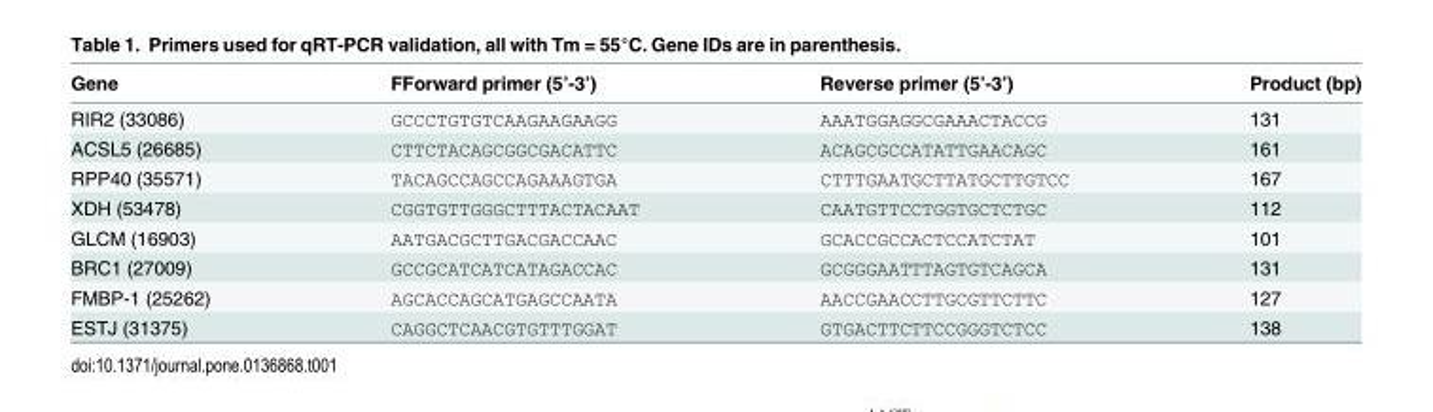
<table><thead><tr><td>Gene</td><td>FForward primer (5’-3’)</td><td>Reverse primer (5’-3’)</td><td>Product (bp)</td></tr></thead><tbody><tr><td>RIR2 (33086)</td><td>GCCCTGTGTCAAGAAGAAGG</td><td>AAATGGAGGCGAAACTACCG</td><td>131</td></tr><tr><td>ACSL5 (26685)</td><td>CTTCTACAGCGGCGACATTC</td><td>ACAGCGCCATATTGAACAGC</td><td>161</td></tr><tr><td>RPP40 (35571)</td><td>TACAGCCAGCCAGAAAGTGA</td><td>CTTTGAATGCTTATGCTTGTCC</td><td>167</td></tr><tr><td>XDH (53478)</td><td>CGGTGTTGGGCTTTACTACAAT</td><td>CAATGTTCCTGGTGCTCTGC</td><td>112</td></tr><tr><td>GLCM (16903)</td><td>AATGACGCTTGACGACCAAC</td><td>GCACCGCCACTCCATCTAT</td><td>101</td></tr><tr><td>BRC1 (27009)</td><td>GCCGCATCATCATAGACCAC</td><td>GCGGGAATTTAGTGTCAGCA</td><td>131</td></tr><tr><td>FMBP-1 (25262)</td><td>AGCACCAGCATGAGCCAATA</td><td>AACCGAACCTTGCGTTCTTC</td><td>127</td></tr><tr><td>ESTJ (31375)</td><td>CAGGCTCAACGTGTTTGGAT</td><td>GTGACTTCTTCCGGGTCTCC</td><td>138</td></tr></tbody></table>